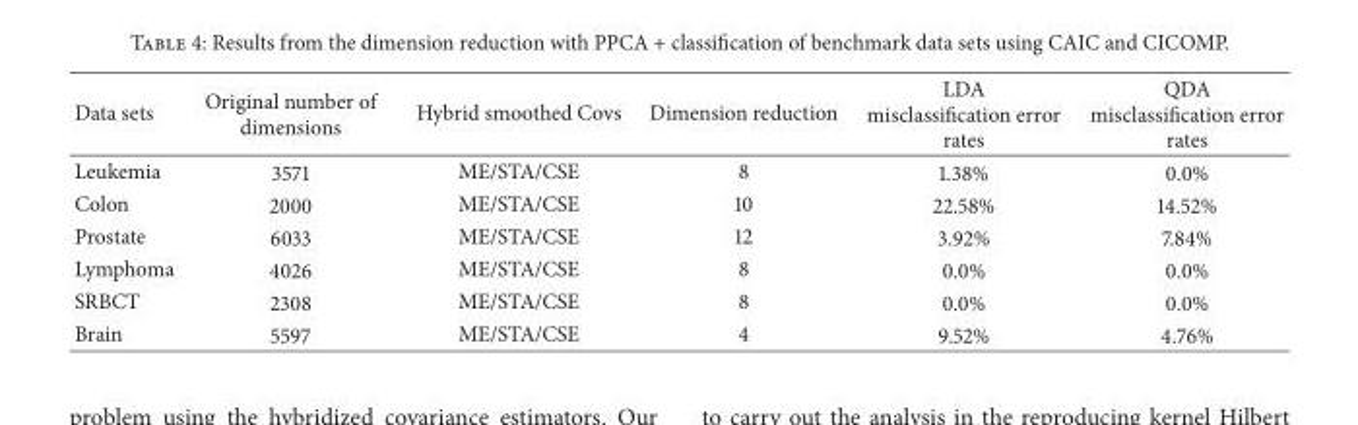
<table><thead><tr><td>Data sets</td><td>Original number of dimensions</td><td>Hybrid smoothed Covs</td><td>Dimension reduction</td><td>LDA misclassification error rates</td><td>QDA misclassification error rates</td></tr></thead><tbody><tr><td>Leukemia</td><td>3571</td><td>ME/STA/CSE</td><td>8</td><td>1.38%</td><td>0.0%</td></tr><tr><td>Colon</td><td>2000</td><td>ME/STA/CSE</td><td>10</td><td>22.58%</td><td>14.52%</td></tr><tr><td>Prostate</td><td>6033</td><td>ME/STA/CSE</td><td>12</td><td>3.92%</td><td>7.84%</td></tr><tr><td>Lymphoma</td><td>4026</td><td>ME/STA/CSE</td><td>8</td><td>0.0%</td><td>0.0%</td></tr><tr><td>SRBCT</td><td>2308</td><td>ME/STA/CSE</td><td>8</td><td>0.0%</td><td>0.0%</td></tr><tr><td>Brain</td><td>5597</td><td>ME/STA/CSE</td><td>4</td><td>9.52%</td><td>4.76%</td></tr></tbody></table>